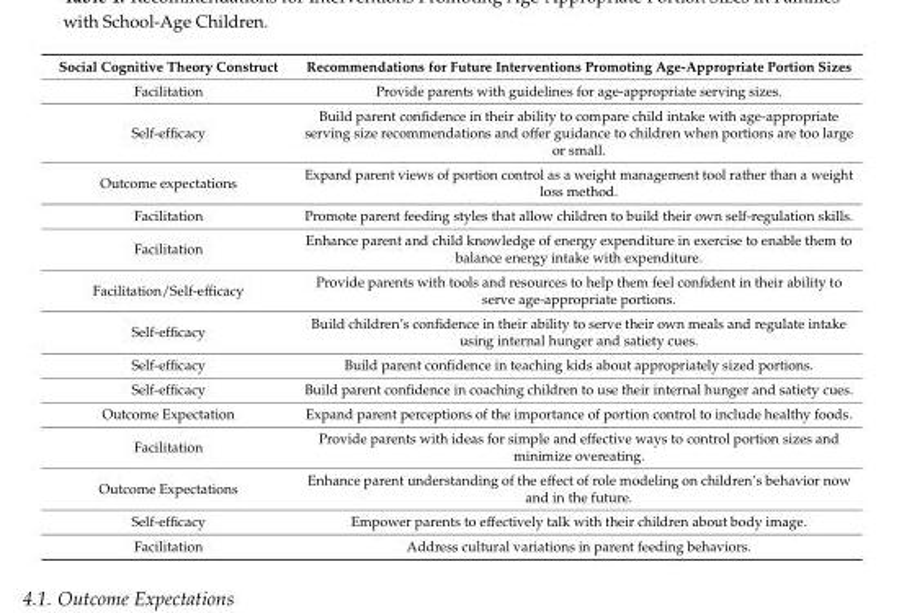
<table><thead><tr><td>Social Cognitive Theory Construct</td><td>Recommendations for Future Interventions Promoting Age-Appropriate Portion Sizes</td></tr></thead><tbody><tr><td>Facilitation</td><td>Provide parents with guidelines for age-appropriate serving sizes.</td></tr><tr><td>Self-efficacy</td><td>Build parent confidence in their ability to compare child intake with age-appropriate serving size recommendations and offer guidance to children when portions are too large or small.</td></tr><tr><td>Outcome expectations</td><td>Expand parent views of portion control as a weight management tool rather than a weight loss method.</td></tr><tr><td>Facilitation</td><td>Promote parent feeding styles that allow children to build their own self-regulation skills.</td></tr><tr><td>Facilitation</td><td>Enhance parent and child knowledge of energy expenditure in exercise to enable them to balance energy intake with expenditure.</td></tr><tr><td>Facilitation/Self-efficacy</td><td>Provide parents with tools and resources to help them feel confident in their ability to serve age-appropriate portions.</td></tr><tr><td>Self-efficacy</td><td>Build children’s confidence in their ability to serve their own meals and regulate intake using internal hunger and satiety cues.</td></tr><tr><td>Self-efficacy</td><td>Build parent confidence in teaching kids about appropriately sized portions.</td></tr><tr><td>Self-efficacy</td><td>Build parent confidence in coaching children to use their internal hunger and satiety cues.</td></tr><tr><td>Outcome Expectation</td><td>Expand parent perceptions of the importance of portion control to include healthy foods.</td></tr><tr><td>Facilitation</td><td>Provide parents with ideas for simple and effective ways to control portion sizes and minimize overeating.</td></tr><tr><td>Outcome Expectations</td><td>Enhance parent understanding of the effect of role modeling on children’s behavior now and in the future.</td></tr><tr><td>Self-efficacy</td><td>Empower parents to effectively talk with their children about body image.</td></tr><tr><td>Facilitation</td><td>Address cultural variations in parent feeding behaviors.</td></tr></tbody></table>